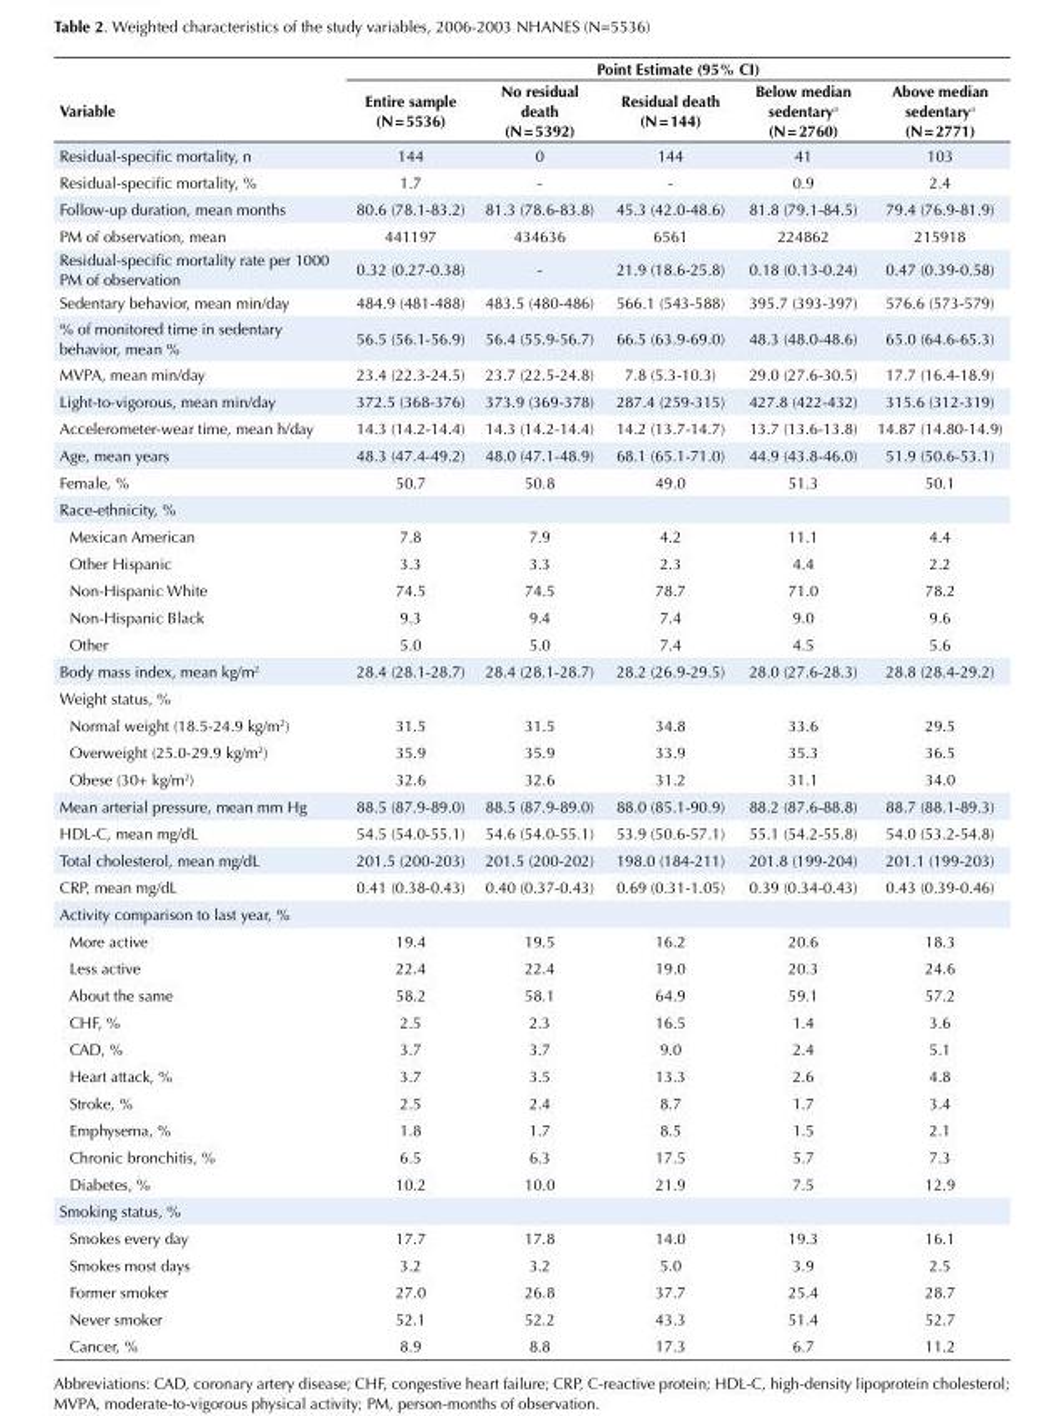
<table><thead><tr><td rowspan="2">Variable</td><td colspan="5">Point Estimate (95% CI)</td></tr><tr><td>Entire sample (N = 5536)</td><td>No residual death (N = 5392)</td><td>Residual death (N = 144)</td><td>Below median sedentary<sup>a</sup> (N = 2760)</td><td>Above median sedentary<sup>a</sup> (N = 2771)</td></tr></thead><tbody><tr><td>Residual-specific mortality, n</td><td>144</td><td>0</td><td>144</td><td>41</td><td>103</td></tr><tr><td>Residual-specific mortality, %</td><td>1.7</td><td>-</td><td>-</td><td>0.9</td><td>2.4</td></tr><tr><td>Follow-up duration, mean months</td><td>80.6 (78.1-83.2)</td><td>81.3 (78.6-83.8)</td><td>45.3 (42.0-48.6)</td><td>81.8 (79.1-84.5)</td><td>79.4 (76.9-81.9)</td></tr><tr><td>PM of observation, mean</td><td>441197</td><td>434636</td><td>6561</td><td>224862</td><td>215918</td></tr><tr><td>Residual-specific mortality rate per 1000 PM of observation</td><td>0.32 (0.27-0.38)</td><td>-</td><td>21.9 (18.6-25.8)</td><td>0.18 (0.13-0.24)</td><td>0.47 (0.39-0.58)</td></tr><tr><td>Sedentary behavior, mean min/day</td><td>484.9 (481-488)</td><td>483.5 (480-486)</td><td>566.1 (543-588)</td><td>395.7 (393-397)</td><td>576.6 (573-579)</td></tr><tr><td>% of monitored time in sedentary behavior, mean %</td><td>56.5 (56.1-56.9)</td><td>56.4 (55.9-56.7)</td><td>66.5 (63.9-69.0)</td><td>48.3 (48.0-48.6)</td><td>65.0 (64.6-65.3)</td></tr><tr><td>MVPA, mean min/day</td><td>23.4 (22.3-24.5)</td><td>23.7 (22.5-24.8)</td><td>7.8 (5.3-10.3)</td><td>29.0 (27.6-30.5)</td><td>17.7 (16.4-18.9)</td></tr><tr><td>Light-to-vigorous, mean min/day</td><td>372.5 (368-376)</td><td>373.9 (369-378)</td><td>287.4 (259-315)</td><td>427.8 (422-432)</td><td>315.6 (312-319)</td></tr><tr><td>Accelerometer-wear time, mean h/day</td><td>14.3 (14.2-14.4)</td><td>14.3 (14.2-14.4)</td><td>14.2 (13.7-14.7)</td><td>13.7 (13.6-13.8)</td><td>14.87 (14.80-14.9)</td></tr><tr><td>Age, mean years</td><td>48.3 (47.4-49.2)</td><td>48.0 (47.1-48.9)</td><td>68.1 (65.1-71.0)</td><td>44.9 (43.8-46.0)</td><td>51.9 (50.6-53.1)</td></tr><tr><td>Female, %</td><td>50.7</td><td>50.8</td><td>49.0</td><td>51.3</td><td>50.1</td></tr><tr><td colspan="6">Race-ethnicity, %</td></tr><tr><td>Mexican American</td><td>7.8</td><td>7.9</td><td>4.2</td><td>11.1</td><td>4.4</td></tr><tr><td>Other Hispanic</td><td>3.3</td><td>3.3</td><td>2.3</td><td>4.4</td><td>2.2</td></tr><tr><td>Non-Hispanic White</td><td>74.5</td><td>74.5</td><td>78.7</td><td>71.0</td><td>78.2</td></tr><tr><td>Non-Hispanic Black</td><td>9.3</td><td>9.4</td><td>7.4</td><td>9.0</td><td>9.6</td></tr><tr><td>Other</td><td>5.0</td><td>5.0</td><td>7.4</td><td>4.5</td><td>5.6</td></tr><tr><td>Body mass index, mean kg/m<sup>2</sup></td><td>28.4 (28.1-28.7)</td><td>28.4 (28.1-28.7)</td><td>28.2 (26.9-29.5)</td><td>28.0 (27.6-28.3)</td><td>28.8 (28.4-29.2)</td></tr><tr><td colspan="6">Weight status, %</td></tr><tr><td>Normal weight (18.5-24.9 kg/m<sup>2</sup>)</td><td>31.5</td><td>31.5</td><td>34.8</td><td>33.6</td><td>29.5</td></tr><tr><td>Overweight (25.0-29.9 kg/m<sup>2</sup>)</td><td>35.9</td><td>35.9</td><td>33.9</td><td>35.3</td><td>36.5</td></tr><tr><td>Obese (30+ kg/m<sup>2</sup>)</td><td>32.6</td><td>32.6</td><td>31.2</td><td>31.1</td><td>34.0</td></tr><tr><td>Mean arterial pressure, mean mm Hg</td><td>88.5 (87.9-89.0)</td><td>88.5 (87.9-89.0)</td><td>88.0 (85.1-90.9)</td><td>88.2 (87.6-88.8)</td><td>88.7 (88.1-89.3)</td></tr><tr><td>HDL-C, mean mg/dL</td><td>54.5 (54.0-55.1)</td><td>54.6 (54.0-55.1)</td><td>53.9 (50.6-57.1)</td><td>55.1 (54.2-55.8)</td><td>54.0 (53.2-54.8)</td></tr><tr><td>Total cholesterol, mean mg/dL</td><td>201.5 (200-203)</td><td>201.5 (200-202)</td><td>198.0 (184-211)</td><td>201.8 (199-204)</td><td>201.1 (199-203)</td></tr><tr><td>CRP, mean mg/dL</td><td>0.41 (0.38-0.43)</td><td>0.40 (0.37-0.43)</td><td>0.69 (0.31-1.05)</td><td>0.39 (0.34-0.43)</td><td>0.43 (0.39-0.46)</td></tr><tr><td colspan="6">Activity comparison to last year, %</td></tr><tr><td>More active</td><td>19.4</td><td>19.5</td><td>16.2</td><td>20.6</td><td>18.3</td></tr><tr><td>Less active</td><td>22.4</td><td>22.4</td><td>19.0</td><td>20.3</td><td>24.6</td></tr><tr><td>About the same</td><td>58.2</td><td>58.1</td><td>64.9</td><td>59.1</td><td>57.2</td></tr><tr><td>CHF, %</td><td>2.5</td><td>2.3</td><td>16.5</td><td>1.4</td><td>3.6</td></tr><tr><td>CAD, %</td><td>3.7</td><td>3.7</td><td>9.0</td><td>2.4</td><td>5.1</td></tr><tr><td>Heart attack, %</td><td>3.7</td><td>3.5</td><td>13.3</td><td>2.6</td><td>4.8</td></tr><tr><td>Stroke, %</td><td>2.5</td><td>2.4</td><td>8.7</td><td>1.7</td><td>3.4</td></tr><tr><td>Emphysema, %</td><td>1.8</td><td>1.7</td><td>8.5</td><td>1.5</td><td>2.1</td></tr><tr><td>Chronic bronchitis, %</td><td>6.5</td><td>6.3</td><td>17.5</td><td>5.7</td><td>7.3</td></tr><tr><td>Diabetes, %</td><td>10.2</td><td>10.0</td><td>21.9</td><td>7.5</td><td>12.9</td></tr><tr><td colspan="6">Smoking status, %</td></tr><tr><td>Smokes every day</td><td>17.7</td><td>17.8</td><td>14.0</td><td>19.3</td><td>16.1</td></tr><tr><td>Smokes most days</td><td>3.2</td><td>3.2</td><td>5.0</td><td>3.9</td><td>2.5</td></tr><tr><td>Former smoker</td><td>27.0</td><td>26.8</td><td>37.7</td><td>25.4</td><td>28.7</td></tr><tr><td>Never smoker</td><td>52.1</td><td>52.2</td><td>43.3</td><td>51.4</td><td>52.7</td></tr><tr><td>Cancer, %</td><td>8.9</td><td>8.8</td><td>17.3</td><td>6.7</td><td>11.2</td></tr></tbody></table>